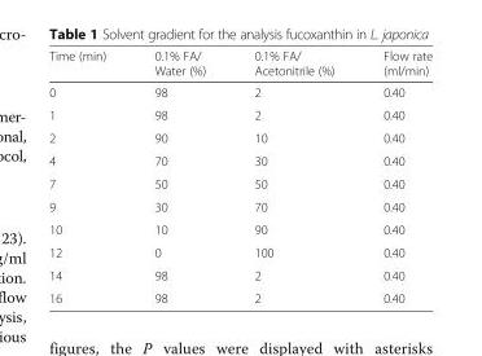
<table><thead><tr><td>Time (min)</td><td>0.1% FA/ Water (%)</td><td>0.1% FA/ Acetonitrile (%)</td><td>Flow rate (ml/min)</td></tr></thead><tbody><tr><td>0</td><td>98</td><td>2</td><td>0.40</td></tr><tr><td>1</td><td>98</td><td>2</td><td>0.40</td></tr><tr><td>2</td><td>90</td><td>10</td><td>0.40</td></tr><tr><td>4</td><td>70</td><td>30</td><td>0.40</td></tr><tr><td>7</td><td>50</td><td>50</td><td>0.40</td></tr><tr><td>9</td><td>30</td><td>70</td><td>0.40</td></tr><tr><td>10</td><td>10</td><td>90</td><td>0.40</td></tr><tr><td>12</td><td>0</td><td>100</td><td>0.40</td></tr><tr><td>14</td><td>98</td><td>2</td><td>0.40</td></tr><tr><td>16</td><td>98</td><td>2</td><td>0.40</td></tr></tbody></table>